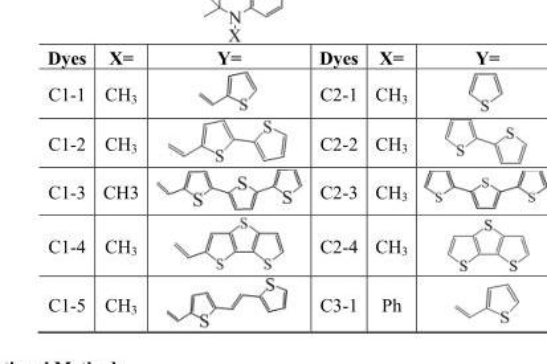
<table><thead><tr><td>Dyes</td><td>X=</td><td>Y=</td><td>Dyes</td><td>X=</td><td>Y=</td></tr></thead><tbody><tr><td>C1-1</td><td>CH3</td><td></td><td>C2-1</td><td>CH3</td><td></td></tr><tr><td>C1-2</td><td>CH3</td><td></td><td>C2-2</td><td>CH3</td><td></td></tr><tr><td>C1-3</td><td>CH3</td><td></td><td>C2-3</td><td>CH3</td><td></td></tr><tr><td>C1-4</td><td>CH3</td><td></td><td>C2-4</td><td>CH3</td><td></td></tr><tr><td>C1-5</td><td>CH3</td><td></td><td>C3-1</td><td>Ph</td><td></td></tr></tbody></table>